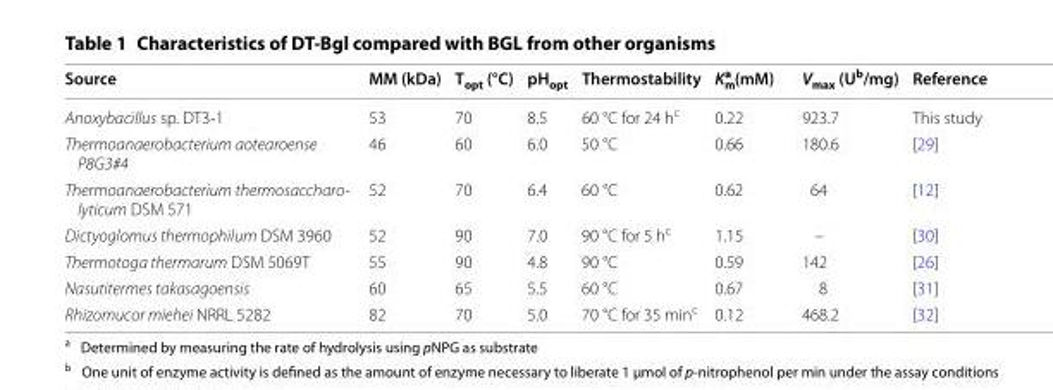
<table><thead><tr><td>Source</td><td>MM (kDa)</td><td>T<sub>opt</sub> (°C)</td><td>pH<sub>opt</sub></td><td>Thermostability</td><td>K<sub>m</sub> <sup>a</sup> (mM)</td><td>V<sub>max</sub> (U<sup>b</sup>/mg)</td><td>Reference</td></tr></thead><tbody><tr><td>Anoxybacillus sp. DT3‑1</td><td>53</td><td>70</td><td>8.5</td><td>60 °C for 24 h<sup>c</sup></td><td>0.22</td><td>923.7</td><td>This study</td></tr><tr><td>Thermoanaerobacterium aotearoense P8G3#4</td><td>46</td><td>60</td><td>6.0</td><td>50 °C</td><td>0.66</td><td>180.6</td><td>[29]</td></tr><tr><td>Thermoanaerobacterium thermosaccharo- lyticum DSM 571</td><td>52</td><td>70</td><td>6.4</td><td>60 °C</td><td>0.62</td><td>64</td><td>[12]</td></tr><tr><td>Dictyoglomus thermophilum DSM 3960</td><td>52</td><td>90</td><td>7.0</td><td>90 °C for 5 h<sup>c</sup></td><td>1.15</td><td>–</td><td>[30]</td></tr><tr><td>Thermotoga thermarum DSM 5069T</td><td>55</td><td>90</td><td>4.8</td><td>90 °C</td><td>0.59</td><td>142</td><td>[26]</td></tr><tr><td>Nasutitermes takasagoensis</td><td>60</td><td>65</td><td>5.5</td><td>60 °C</td><td>0.67</td><td>8</td><td>[31]</td></tr><tr><td>Rhizomucor miehei NRRL 5282</td><td>82</td><td>70</td><td>5.0</td><td>70 °C for 35 min<sup>c</sup></td><td>0.12</td><td>468.2</td><td>[32]</td></tr></tbody></table>